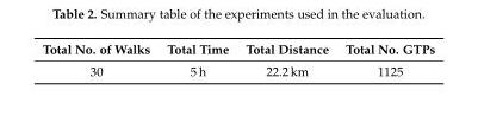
<table><thead><tr><td>Total No. of Walks</td><td>Total Time</td><td>Total Distance</td><td>Total No. GTPs</td></tr></thead><tbody><tr><td>30</td><td>5 h</td><td>22.2 km</td><td>1125</td></tr></tbody></table>